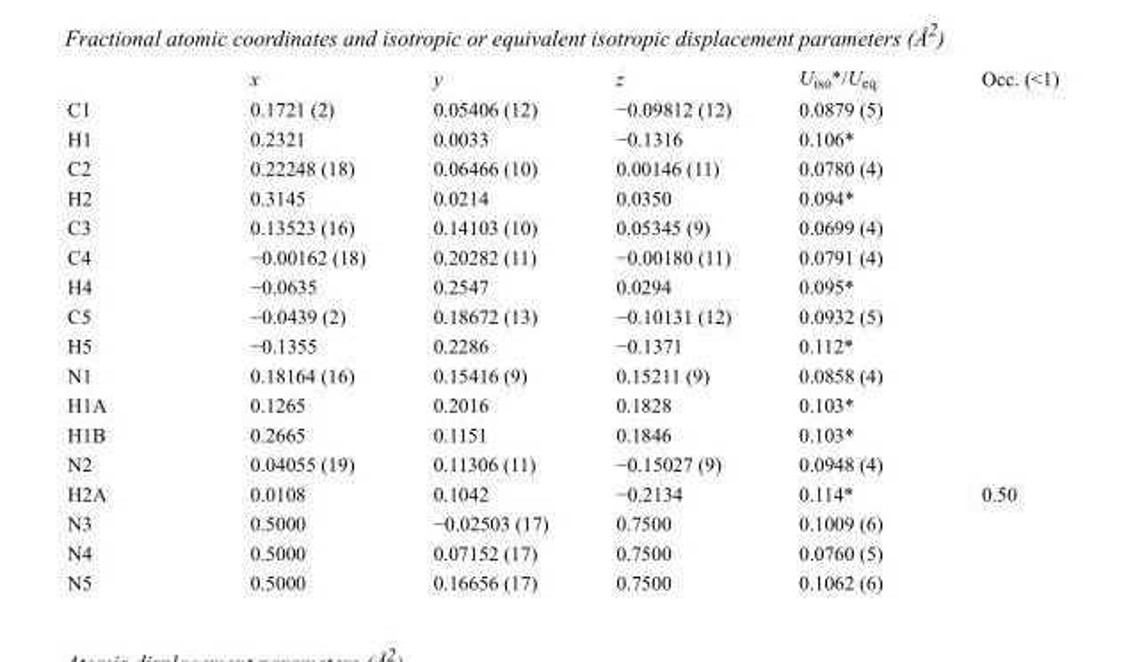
<table><thead><tr><td></td><td>x</td><td>y</td><td>z</td><td>U<sub>iso</sub>*/U<sub>eq</sub></td><td>Occ. (&lt;1)</td></tr></thead><tbody><tr><td>C1</td><td>0.1721 (2)</td><td>0.05406 (12)</td><td>−0.09812 (12)</td><td>0.0879 (5)</td><td></td></tr><tr><td>H1</td><td>0.2321</td><td>0.0033</td><td>−0.1316</td><td>0.106*</td><td></td></tr><tr><td>C2</td><td>0.22248 (18)</td><td>0.06466 (10)</td><td>0.00146 (11)</td><td>0.0780 (4)</td><td></td></tr><tr><td>H2</td><td>0.3145</td><td>0.0214</td><td>0.0350</td><td>0.094*</td><td></td></tr><tr><td>C3</td><td>0.13523 (16)</td><td>0.14103 (10)</td><td>0.05345 (9)</td><td>0.0699 (4)</td><td></td></tr><tr><td>C4</td><td>−0.00162 (18)</td><td>0.20282 (11)</td><td>−0.00180 (11)</td><td>0.0791 (4)</td><td></td></tr><tr><td>H4</td><td>−0.0635</td><td>0.2547</td><td>0.0294</td><td>0.095*</td><td></td></tr><tr><td>C5</td><td>−0.0439 (2)</td><td>0.18672 (13)</td><td>−0.10131 (12)</td><td>0.0932 (5)</td><td></td></tr><tr><td>H5</td><td>−0.1355</td><td>0.2286</td><td>−0.1371</td><td>0.112*</td><td></td></tr><tr><td>N1</td><td>0.18164 (16)</td><td>0.15416 (9)</td><td>0.15211 (9)</td><td>0.0858 (4)</td><td></td></tr><tr><td>H1A</td><td>0.1265</td><td>0.2016</td><td>0.1828</td><td>0.103*</td><td></td></tr><tr><td>H1B</td><td>0.2665</td><td>0.1151</td><td>0.1846</td><td>0.103*</td><td></td></tr><tr><td>N2</td><td>0.04055 (19)</td><td>0.11306 (11)</td><td>−0.15027 (9)</td><td>0.0948 (4)</td><td></td></tr><tr><td>H2A</td><td>0.0108</td><td>0.1042</td><td>−0.2134</td><td>0.114*</td><td>0.50</td></tr><tr><td>N3</td><td>0.5000</td><td>−0.02503 (17)</td><td>0.7500</td><td>0.1009 (6)</td><td></td></tr><tr><td>N4</td><td>0.5000</td><td>0.07152 (17)</td><td>0.7500</td><td>0.0760 (5)</td><td></td></tr><tr><td>N5</td><td>0.5000</td><td>0.16656 (17)</td><td>0.7500</td><td>0.1062 (6)</td><td></td></tr></tbody></table>